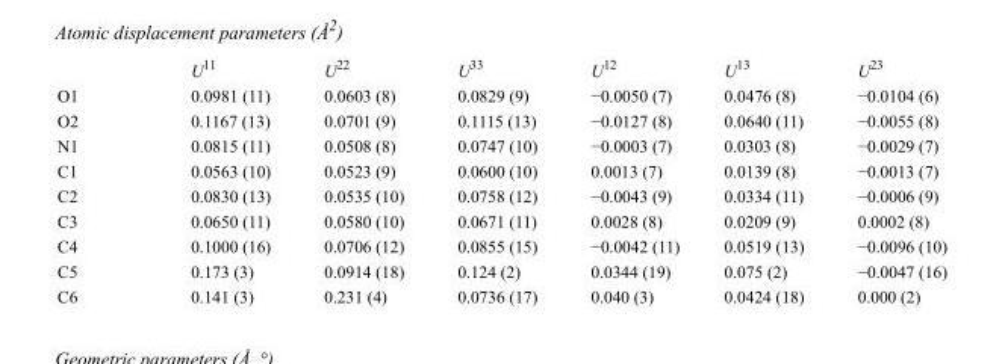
<table><thead><tr><td></td><td>U<sup>11</sup></td><td>U<sup>22</sup></td><td>U<sup>33</sup></td><td>U<sup>12</sup></td><td>U<sup>13</sup></td><td>U<sup>23</sup></td></tr></thead><tbody><tr><td>O1</td><td>0.0981 (11)</td><td>0.0603 (8)</td><td>0.0829 (9)</td><td>−0.0050 (7)</td><td>0.0476 (8)</td><td>−0.0104 (6)</td></tr><tr><td>O2</td><td>0.1167 (13)</td><td>0.0701 (9)</td><td>0.1115 (13)</td><td>−0.0127 (8)</td><td>0.0640 (11)</td><td>−0.0055 (8)</td></tr><tr><td>N1</td><td>0.0815 (11)</td><td>0.0508 (8)</td><td>0.0747 (10)</td><td>−0.0003 (7)</td><td>0.0303 (8)</td><td>−0.0029 (7)</td></tr><tr><td>C1</td><td>0.0563 (10)</td><td>0.0523 (9)</td><td>0.0600 (10)</td><td>0.0013 (7)</td><td>0.0139 (8)</td><td>−0.0013 (7)</td></tr><tr><td>C2</td><td>0.0830 (13)</td><td>0.0535 (10)</td><td>0.0758 (12)</td><td>−0.0043 (9)</td><td>0.0334 (11)</td><td>−0.0006 (9)</td></tr><tr><td>C3</td><td>0.0650 (11)</td><td>0.0580 (10)</td><td>0.0671 (11)</td><td>0.0028 (8)</td><td>0.0209 (9)</td><td>0.0002 (8)</td></tr><tr><td>C4</td><td>0.1000 (16)</td><td>0.0706 (12)</td><td>0.0855 (15)</td><td>−0.0042 (11)</td><td>0.0519 (13)</td><td>−0.0096 (10)</td></tr><tr><td>C5</td><td>0.173 (3)</td><td>0.0914 (18)</td><td>0.124 (2)</td><td>0.0344 (19)</td><td>0.075 (2)</td><td>−0.0047 (16)</td></tr><tr><td>C6</td><td>0.141 (3)</td><td>0.231 (4)</td><td>0.0736 (17)</td><td>0.040 (3)</td><td>0.0424 (18)</td><td>0.000 (2)</td></tr></tbody></table>